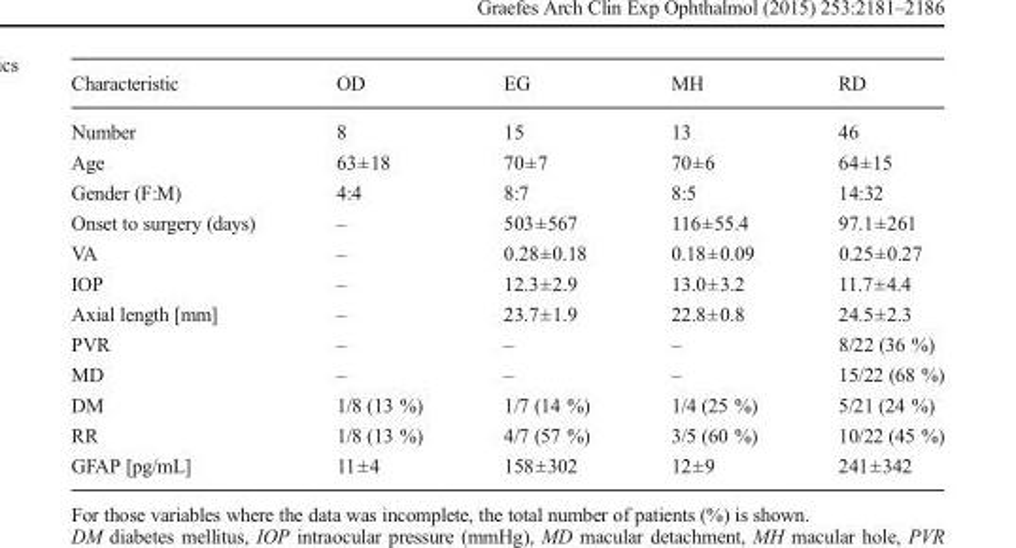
<table><thead><tr><td>Characteristic</td><td>OD</td><td>EG</td><td>MH</td><td>RD</td></tr></thead><tbody><tr><td>Number</td><td>8</td><td>15</td><td>13</td><td>46</td></tr><tr><td>Age</td><td>63±18</td><td>70±7</td><td>70±6</td><td>64±15</td></tr><tr><td>Gender (F:M)</td><td>4:4</td><td>8:7</td><td>8:5</td><td>14:32</td></tr><tr><td>Onset to surgery (days)</td><td>–</td><td>503±567</td><td>116±55.4</td><td>97.1±261</td></tr><tr><td>VA</td><td>–</td><td>0.28±0.18</td><td>0.18±0.09</td><td>0.25±0.27</td></tr><tr><td>IOP</td><td>–</td><td>12.3±2.9</td><td>13.0±3.2</td><td>11.7±4.4</td></tr><tr><td>Axial length [mm]</td><td>–</td><td>23.7±1.9</td><td>22.8±0.8</td><td>24.5±2.3</td></tr><tr><td>PVR</td><td>–</td><td>–</td><td>–</td><td>8/22 (36 %)</td></tr><tr><td>MD</td><td>–</td><td>–</td><td>–</td><td>15/22 (68 %)</td></tr><tr><td>DM</td><td>1/8 (13 %)</td><td>1/7 (14 %)</td><td>1/4 (25 %)</td><td>5/21 (24 %)</td></tr><tr><td>RR</td><td>1/8 (13 %)</td><td>4/7 (57 %)</td><td>3/5 (60 %)</td><td>10/22 (45 %)</td></tr><tr><td>GFAP [pg/mL]</td><td>11±4</td><td>158±302</td><td>12±9</td><td>241±342</td></tr></tbody></table>